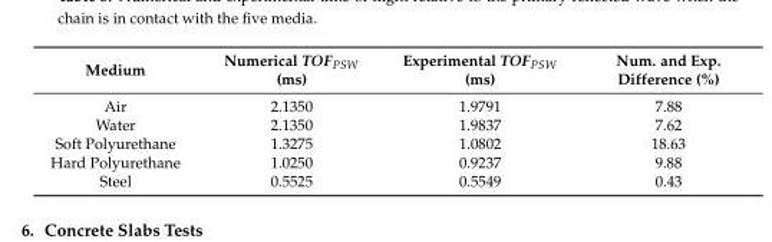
<table><thead><tr><td>Medium</td><td>Numerical TOF<sub>PSW</sub> (ms)</td><td>Experimental TOF<sub>PSW</sub> (ms)</td><td>Num. and Exp. Difference (%)</td></tr></thead><tbody><tr><td>Air</td><td>2.1350</td><td>1.9791</td><td>7.88</td></tr><tr><td>Water</td><td>2.1350</td><td>1.9837</td><td>7.62</td></tr><tr><td>Soft Polyurethane</td><td>1.3275</td><td>1.0802</td><td>18.63</td></tr><tr><td>Hard Polyurethane</td><td>1.0250</td><td>0.9237</td><td>9.88</td></tr><tr><td>Steel</td><td>0.5525</td><td>0.5549</td><td>0.43</td></tr></tbody></table>